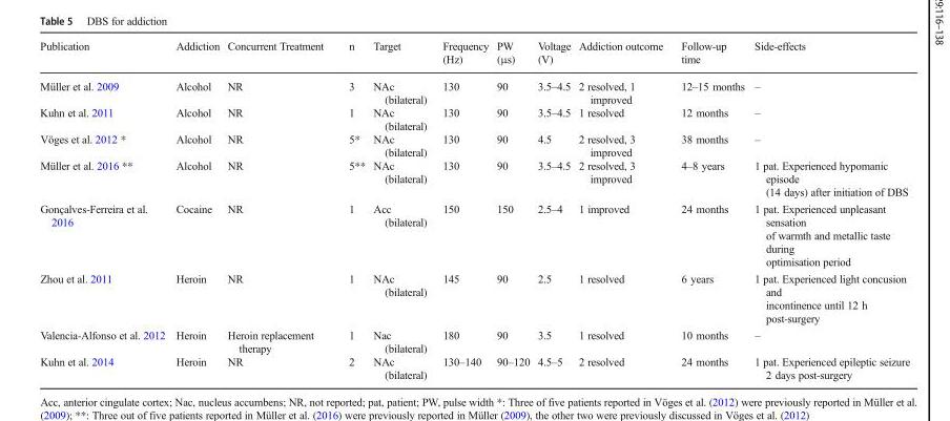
<table><thead><tr><td>Publication</td><td>Addiction</td><td>Concurrent Treatment</td><td>n</td><td>Target</td><td>Frequency (Hz)</td><td>PW (μs)</td><td>Voltage (V)</td><td>Addiction outcome</td><td>Follow-up time</td><td>Side-effects</td></tr></thead><tbody><tr><td>Müller et al. 2009</td><td>Alcohol</td><td>NR</td><td>3</td><td>NAc (bilateral)</td><td>130</td><td>90</td><td>3.5–4.5</td><td>2 resolved, 1 improved</td><td>12–15 months</td><td>–</td></tr><tr><td>Kuhn et al. 2011</td><td>Alcohol</td><td>NR</td><td>1</td><td>NAc (bilateral)</td><td>130</td><td>90</td><td>3.5–4.5</td><td>1 resolved</td><td>12 months</td><td>–</td></tr><tr><td>Vöges et al. 2012 *</td><td>Alcohol</td><td>NR</td><td>5*</td><td>NAc (bilateral)</td><td>130</td><td>90</td><td>4.5</td><td>2 resolved, 3 improved</td><td>38 months</td><td>–</td></tr><tr><td>Müller et al. 2016 **</td><td>Alcohol</td><td>NR</td><td>5**</td><td>NAc (bilateral)</td><td>130</td><td>90</td><td>3.5–4.5</td><td>2 resolved, 3 improved</td><td>4–8 years</td><td>1 pat. Experienced hypomanic episode (14 days) after initiation of DBS</td></tr><tr><td>Gonçalves-Ferreira et al. 2016</td><td>Cocaine</td><td>NR</td><td>1</td><td>Acc (bilateral)</td><td>150</td><td>150</td><td>2.5–4</td><td>1 improved</td><td>24 months</td><td>1 pat. Experienced unpleasant sensation of warmth and metallic taste during optimisation period</td></tr><tr><td>Zhou et al. 2011</td><td>Heroin</td><td>NR</td><td>1</td><td>NAc (bilateral)</td><td>145</td><td>90</td><td>2.5</td><td>1 resolved</td><td>6 years</td><td>1 pat. Experienced light concusion and incontinence until 12 h post-surgery</td></tr><tr><td>Valencia-Alfonso et al. 2012</td><td>Heroin</td><td>Heroin replacement therapy</td><td>1</td><td>Nac (bilateral)</td><td>180</td><td>90</td><td>3.5</td><td>1 resolved</td><td>10 months</td><td>–</td></tr><tr><td>Kuhn et al. 2014</td><td>Heroin</td><td>NR</td><td>2</td><td>NAc (bilateral)</td><td>130–140</td><td>90–120</td><td>4.5–5</td><td>2 resolved</td><td>24 months</td><td>1 pat. Experienced epileptic seizure 2 days post-surgery</td></tr></tbody></table>